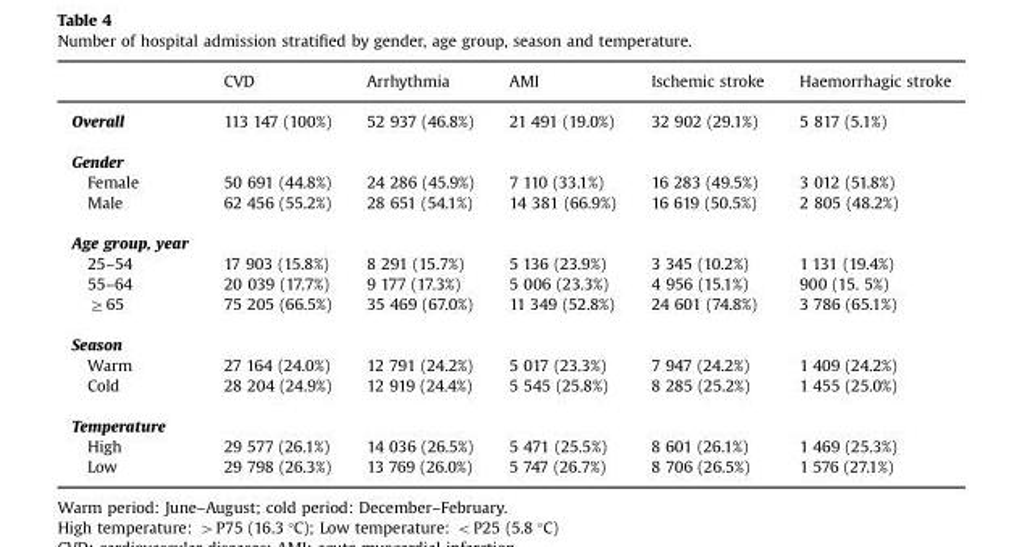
<table><thead><tr><td></td><td>CVD</td><td>Arrhythmia</td><td>AMI</td><td>Ischemic stroke</td><td>Haemorrhagic stroke</td></tr></thead><tbody><tr><td>Overall</td><td>113 147 (100%)</td><td>52 937 (46.8%)</td><td>21 491 (19.0%)</td><td>32 902 (29.1%)</td><td>5 817 (5.1%)</td></tr><tr><td colspan="6">Gender</td></tr><tr><td>Female</td><td>50 691 (44.8%)</td><td>24 286 (45.9%)</td><td>7 110 (33.1%)</td><td>16 283 (49.5%)</td><td>3 012 (51.8%)</td></tr><tr><td>Male</td><td>62 456 (55.2%)</td><td>28 651 (54.1%)</td><td>14 381 (66.9%)</td><td>16 619 (50.5%)</td><td>2 805 (48.2%)</td></tr><tr><td colspan="6">Age group, year</td></tr><tr><td>25–54</td><td>17 903 (15.8%)</td><td>8 291 (15.7%)</td><td>5 136 (23.9%)</td><td>3 345 (10.2%)</td><td>1 131 (19.4%)</td></tr><tr><td>55–64</td><td>20 039 (17.7%)</td><td>9 177 (17.3%)</td><td>5 006 (23.3%)</td><td>4 956 (15.1%)</td><td>900 (15. 5%)</td></tr><tr><td>≥65</td><td>75 205 (66.5%)</td><td>35 469 (67.0%)</td><td>11 349 (52.8%)</td><td>24 601 (74.8%)</td><td>3 786 (65.1%)</td></tr><tr><td colspan="6">Season</td></tr><tr><td>Warm</td><td>27 164 (24.0%)</td><td>12 791 (24.2%)</td><td>5 017 (23.3%)</td><td>7 947 (24.2%)</td><td>1 409 (24.2%)</td></tr><tr><td>Cold</td><td>28 204 (24.9%)</td><td>12 919 (24.4%)</td><td>5 545 (25.8%)</td><td>8 285 (25.2%)</td><td>1 455 (25.0%)</td></tr><tr><td colspan="6">Temperature</td></tr><tr><td>High</td><td>29 577 (26.1%)</td><td>14 036 (26.5%)</td><td>5 471 (25.5%)</td><td>8 601 (26.1%)</td><td>1 469 (25.3%)</td></tr><tr><td>Low</td><td>29 798 (26.3%)</td><td>13 769 (26.0%)</td><td>5 747 (26.7%)</td><td>8 706 (26.5%)</td><td>1 576 (27.1%)</td></tr></tbody></table>